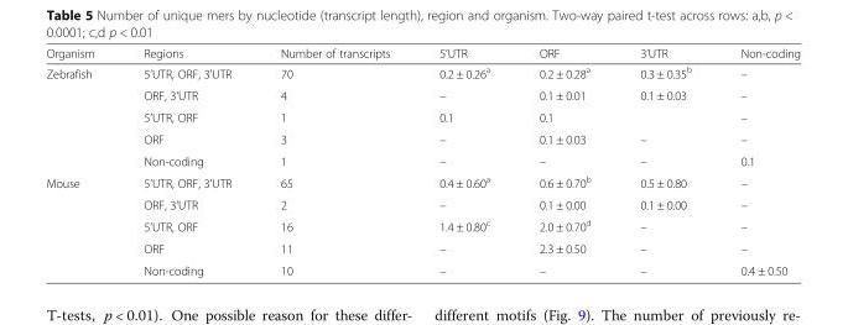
<table><thead><tr><td>Organism</td><td>Regions</td><td>Number of transcripts</td><td>5’UTR</td><td>ORF</td><td>3’UTR</td><td>Non-coding</td></tr></thead><tbody><tr><td rowspan="5">Zebrafish</td><td>5’UTR, ORF, 3’UTR</td><td>70</td><td>0.2 ± 0.26<sup>a</sup></td><td>0.2 ± 0.28<sup>a</sup></td><td>0.3 ± 0.35<sup>b</sup></td><td>–</td></tr><tr><td>ORF, 3’UTR</td><td>4</td><td>–</td><td>0.1 ± 0.01</td><td>0.1 ± 0.03</td><td>–</td></tr><tr><td>5’UTR, ORF</td><td>1</td><td>0.1</td><td>0.1</td><td></td><td>–</td></tr><tr><td>ORF</td><td>3</td><td>–</td><td>0.1 ± 0.03</td><td>–</td><td>–</td></tr><tr><td>Non-coding</td><td>1</td><td>–</td><td>–</td><td>–</td><td>0.1</td></tr><tr><td rowspan="5">Mouse</td><td>5’UTR, ORF, 3’UTR</td><td>65</td><td>0.4 ± 0.60<sup>a</sup></td><td>0.6 ± 0.70<sup>b</sup></td><td>0.5 ± 0.80</td><td>–</td></tr><tr><td>ORF, 3’UTR</td><td>2</td><td>–</td><td>0.1 ± 0.00</td><td>0.1 ± 0.00</td><td>–</td></tr><tr><td>5’UTR, ORF</td><td>16</td><td>1.4 ± 0.80<sup>c</sup></td><td>2.0 ± 0.70<sup>d</sup></td><td>–</td><td>–</td></tr><tr><td>ORF</td><td>11</td><td>–</td><td>2.3 ± 0.50</td><td>–</td><td>–</td></tr><tr><td>Non-coding</td><td>10</td><td>–</td><td>–</td><td>–</td><td>0.4 ± 0.50</td></tr></tbody></table>